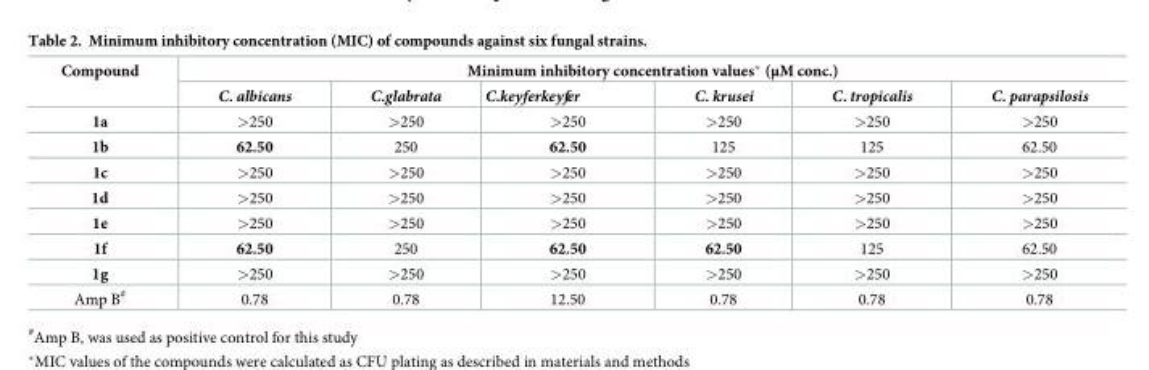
<table><thead><tr><td rowspan="2">Compound</td><td colspan="6">Minimum inhibitory concentration values* (μM conc.)</td></tr><tr><td>C. albicans</td><td>C.glabrata</td><td>C.keyferkeyfer</td><td>C. krusei</td><td>C. tropicalis</td><td>C. parapsilosis</td></tr></thead><tbody><tr><td>1a</td><td>&gt;250</td><td>&gt;250</td><td>&gt;250</td><td>&gt;250</td><td>&gt;250</td><td>&gt;250</td></tr><tr><td>1b</td><td>62.50</td><td>250</td><td>62.50</td><td>125</td><td>125</td><td>62.50</td></tr><tr><td>1c</td><td>&gt;250</td><td>&gt;250</td><td>&gt;250</td><td>&gt;250</td><td>&gt;250</td><td>&gt;250</td></tr><tr><td>1d</td><td>&gt;250</td><td>&gt;250</td><td>&gt;250</td><td>&gt;250</td><td>&gt;250</td><td>&gt;250</td></tr><tr><td>1e</td><td>&gt;250</td><td>&gt;250</td><td>&gt;250</td><td>&gt;250</td><td>&gt;250</td><td>&gt;250</td></tr><tr><td>1f</td><td>62.50</td><td>250</td><td>62.50</td><td>62.50</td><td>125</td><td>62.50</td></tr><tr><td>1g</td><td>&gt;250</td><td>&gt;250</td><td>&gt;250</td><td>&gt;250</td><td>&gt;250</td><td>&gt;250</td></tr><tr><td>Amp B<sup>#</sup></td><td>0.78</td><td>0.78</td><td>12.50</td><td>0.78</td><td>0.78</td><td>0.78</td></tr></tbody></table>